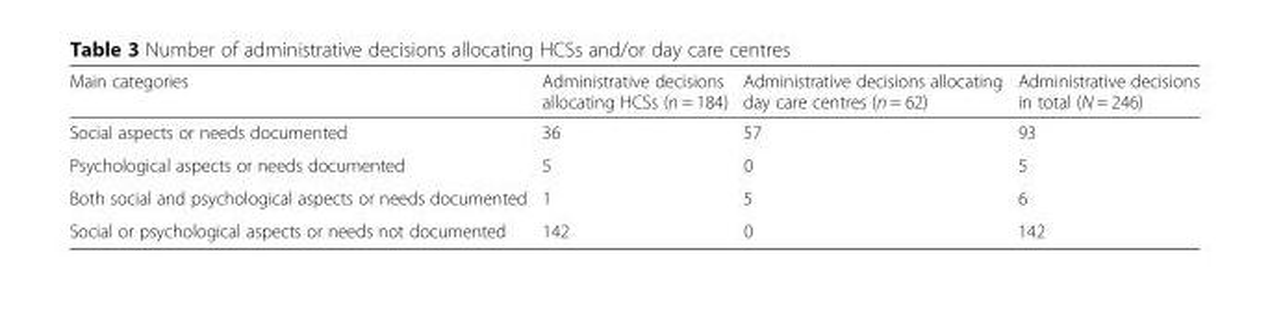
<table><thead><tr><td>Main categories</td><td>Administrative decisions allocating HCSs (n = 184)</td><td>Administrative decisions allocating day care centres (n = 62)</td><td>Administrative decisions in total (N = 246)</td></tr></thead><tbody><tr><td>Social aspects or needs documented</td><td>36</td><td>57</td><td>93</td></tr><tr><td>Psychological aspects or needs documented</td><td>5</td><td>0</td><td>5</td></tr><tr><td>Both social and psychological aspects or needs documented</td><td>1</td><td>5</td><td>6</td></tr><tr><td>Social or psychological aspects or needs not documented</td><td>142</td><td>0</td><td>142</td></tr></tbody></table>